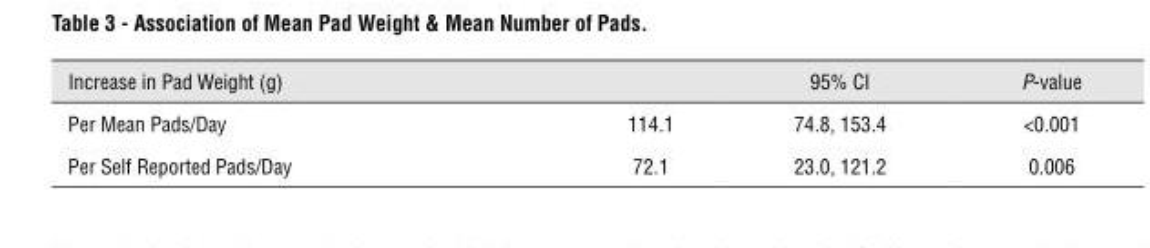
<table><thead><tr><td>Increase in Pad Weight (g)</td><td></td><td>95% CI</td><td>P-value</td></tr></thead><tbody><tr><td>Per Mean Pads/Day</td><td>114.1</td><td>74.8, 153.4</td><td>&lt;0.001</td></tr><tr><td>Per Self Reported Pads/Day</td><td>72.1</td><td>23.0, 121.2</td><td>0.006</td></tr></tbody></table>